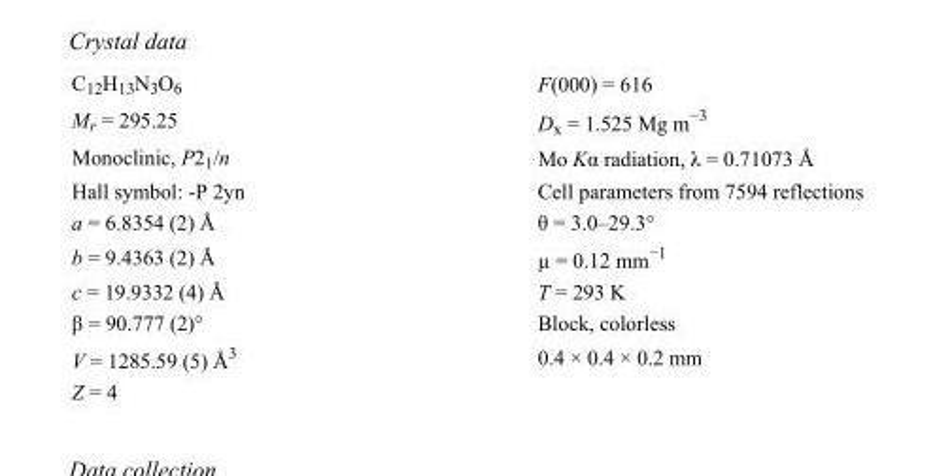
<table><tbody><tr><td>C<sub>12</sub>H<sub>13</sub>N<sub>3</sub>O<sub>6</sub></td><td>F(000) = 616</td></tr><tr><td>M<sub>r</sub> = 295.25</td><td>D<sub>x</sub> = 1.525 Mg m<sup>−3</sup></td></tr><tr><td>Monoclinic, P2<sub>1</sub>/n</td><td>Mo Kα radiation, λ = 0.71073 Å</td></tr><tr><td>Hall symbol: -P 2yn</td><td>Cell parameters from 7594 reflections</td></tr><tr><td>a = 6.8354 (2) Å</td><td>θ = 3.0–29.3°</td></tr><tr><td>b = 9.4363 (2) Å</td><td>µ = 0.12 mm<sup>−1</sup></td></tr><tr><td>c = 19.9332 (4) Å</td><td>T = 293 K</td></tr><tr><td>β = 90.777 (2)°</td><td>Block, colorless</td></tr><tr><td>V = 1285.59 (5) Å<sup>3</sup></td><td>0.4 × 0.4 × 0.2 mm</td></tr><tr><td>Z = 4</td><td></td></tr></tbody></table>